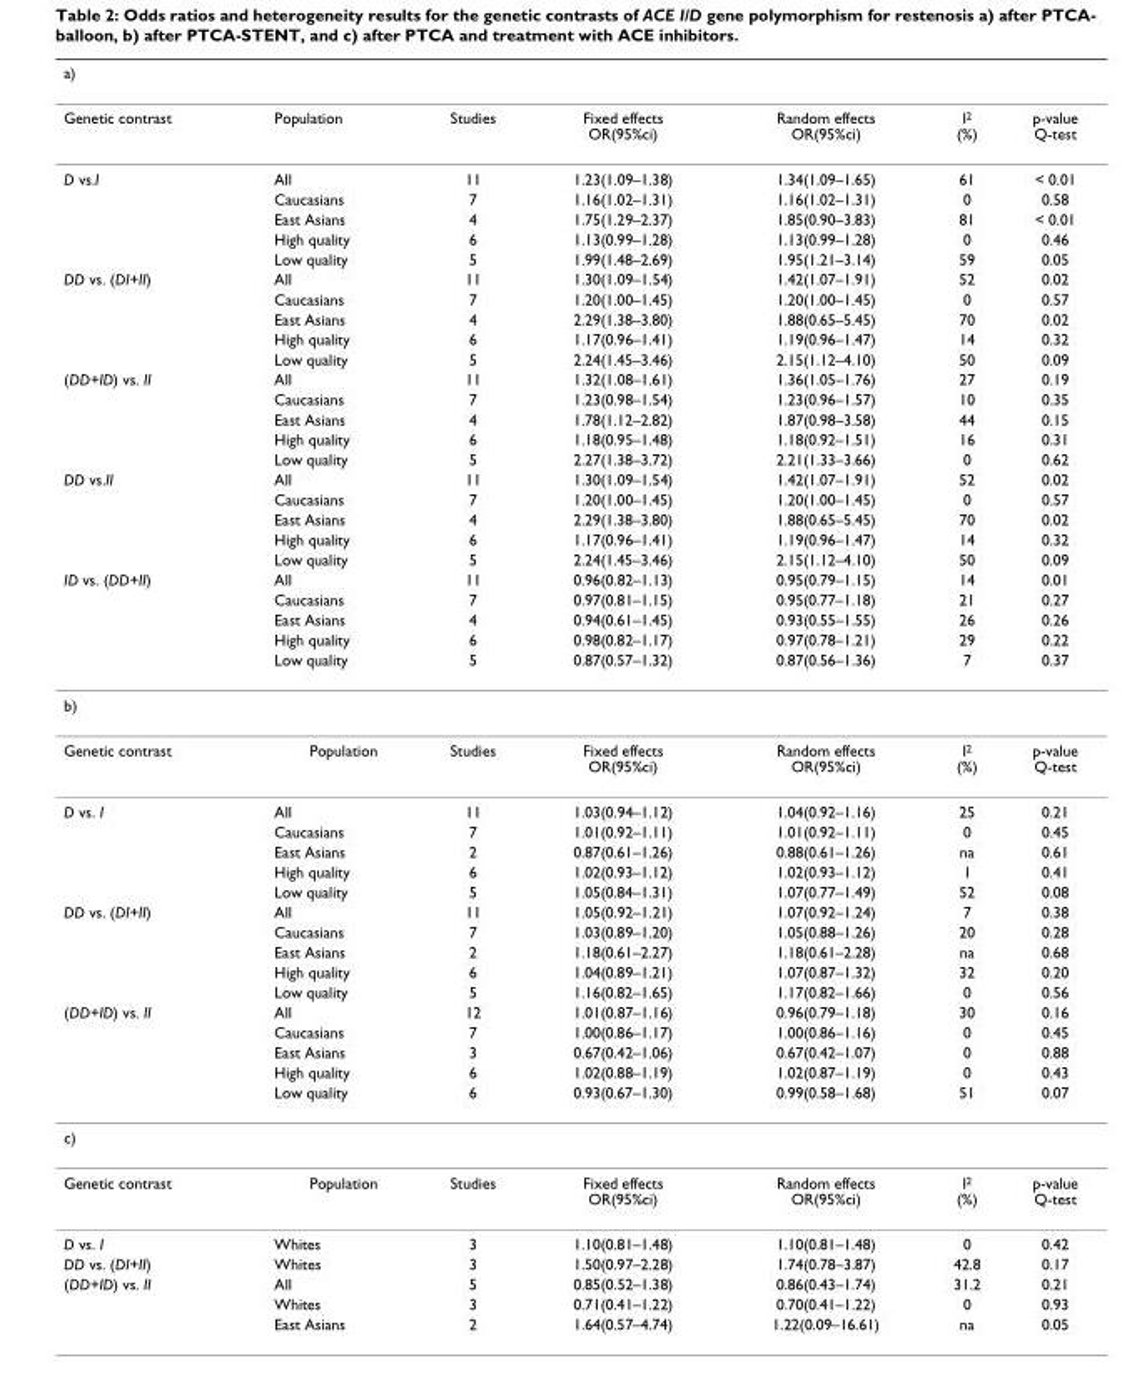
<table><thead><tr><td>a)</td><td></td><td></td><td></td><td></td><td></td><td></td></tr></thead><tbody><tr><td>Genetic contrast</td><td>Population</td><td>Studies</td><td>Fixed effects OR(95%ci)</td><td>Random effects OR(95%ci)</td><td>I<sup>2</sup> (%)</td><td>p-value Q-test</td></tr><tr><td rowspan="5">D vs.I</td><td>All</td><td>11</td><td>1.23(1.09–1.38)</td><td>1.34(1.09–1.65)</td><td>61</td><td>&lt; 0.01</td></tr><tr><td>Caucasians</td><td>7</td><td>1.16(1.02–1.31)</td><td>1.16(1.02–1.31)</td><td>0</td><td>0.58</td></tr><tr><td>East Asians</td><td>4</td><td>1.75(1.29–2.37)</td><td>1.85(0.90–3.83)</td><td>81</td><td>&lt; 0.01</td></tr><tr><td>High quality</td><td>6</td><td>1.13(0.99–1.28)</td><td>1.13(0.99–1.28)</td><td>0</td><td>0.46</td></tr><tr><td>Low quality</td><td>5</td><td>1.99(1.48–2.69)</td><td>1.95(1.21–3.14)</td><td>59</td><td>0.05</td></tr><tr><td rowspan="5">DD vs. (DI+II)</td><td>All</td><td>11</td><td>1.30(1.09–1.54)</td><td>1.42(1.07–1.91)</td><td>52</td><td>0.02</td></tr><tr><td>Caucasians</td><td>7</td><td>1.20(1.00–1.45)</td><td>1.20(1.00–1.45)</td><td>0</td><td>0.57</td></tr><tr><td>East Asians</td><td>4</td><td>2.29(1.38–3.80)</td><td>1.88(0.65–5.45)</td><td>70</td><td>0.02</td></tr><tr><td>High quality</td><td>6</td><td>1.17(0.96–1.41)</td><td>1.19(0.96–1.47)</td><td>14</td><td>0.32</td></tr><tr><td>Low quality</td><td>5</td><td>2.24(1.45–3.46)</td><td>2.15(1.12–4.10)</td><td>50</td><td>0.09</td></tr><tr><td rowspan="5">(DD+ID) vs. II</td><td>All</td><td>11</td><td>1.32(1.08–1.61)</td><td>1.36(1.05–1.76)</td><td>27</td><td>0.19</td></tr><tr><td>Caucasians</td><td>7</td><td>1.23(0.98–1.54)</td><td>1.23(0.96–1.57)</td><td>10</td><td>0.35</td></tr><tr><td>East Asians</td><td>4</td><td>1.78(1.12–2.82)</td><td>1.87(0.98–3.58)</td><td>44</td><td>0.15</td></tr><tr><td>High quality</td><td>6</td><td>1.18(0.95–1.48)</td><td>1.18(0.92–1.51)</td><td>16</td><td>0.31</td></tr><tr><td>Low quality</td><td>5</td><td>2.27(1.38–3.72)</td><td>2.21(1.33–3.66)</td><td>0</td><td>0.62</td></tr><tr><td rowspan="5">DD vs.II</td><td>All</td><td>11</td><td>1.30(1.09–1.54)</td><td>1.42(1.07–1.91)</td><td>52</td><td>0.02</td></tr><tr><td>Caucasians</td><td>7</td><td>1.20(1.00–1.45)</td><td>1.20(1.00–1.45)</td><td>0</td><td>0.57</td></tr><tr><td>East Asians</td><td>4</td><td>2.29(1.38–3.80)</td><td>1.88(0.65–5.45)</td><td>70</td><td>0.02</td></tr><tr><td>High quality</td><td>6</td><td>1.17(0.96–1.41)</td><td>1.19(0.96–1.47)</td><td>14</td><td>0.32</td></tr><tr><td>Low quality</td><td>5</td><td>2.24(1.45–3.46)</td><td>2.15(1.12–4.10)</td><td>50</td><td>0.09</td></tr><tr><td rowspan="5">ID vs. (DD+II)</td><td>All</td><td>11</td><td>0.96(0.82–1.13)</td><td>0.95(0.79–1.15)</td><td>14</td><td>0.01</td></tr><tr><td>Caucasians</td><td>7</td><td>0.97(0.81–1.15)</td><td>0.95(0.77–1.18)</td><td>21</td><td>0.27</td></tr><tr><td>East Asians</td><td>4</td><td>0.94(0.61–1.45)</td><td>0.93(0.55–1.55)</td><td>26</td><td>0.26</td></tr><tr><td>High quality</td><td>6</td><td>0.98(0.82–1.17)</td><td>0.97(0.78–1.21)</td><td>29</td><td>0.22</td></tr><tr><td>Low quality</td><td>5</td><td>0.87(0.57–1.32)</td><td>0.87(0.56–1.36)</td><td>7</td><td>0.37</td></tr><tr><td colspan="7">b)</td></tr><tr><td>Genetic contrast</td><td>Population</td><td>Studies</td><td>Fixed effects OR(95%ci)</td><td>Random effects OR(95%ci)</td><td>I<sup>2</sup> (%)</td><td>p-value Q-test</td></tr><tr><td rowspan="5">D vs. I</td><td>All</td><td>11</td><td>1.03(0.94–1.12)</td><td>1.04(0.92–1.16)</td><td>25</td><td>0.21</td></tr><tr><td>Caucasians</td><td>7</td><td>1.01(0.92–1.11)</td><td>1.01(0.92–1.11)</td><td>0</td><td>0.45</td></tr><tr><td>East Asians</td><td>2</td><td>0.87(0.61–1.26)</td><td>0.88(0.61–1.26)</td><td>na</td><td>0.61</td></tr><tr><td>High quality</td><td>6</td><td>1.02(0.93–1.12)</td><td>1.02(0.93–1.12)</td><td>1</td><td>0.41</td></tr><tr><td>Low quality</td><td>5</td><td>1.05(0.84–1.31)</td><td>1.07(0.77–1.49)</td><td>52</td><td>0.08</td></tr><tr><td rowspan="5">DD vs. (DI+II)</td><td>All</td><td>11</td><td>1.05(0.92–1.21)</td><td>1.07(0.92–1.24)</td><td>7</td><td>0.38</td></tr><tr><td>Caucasians</td><td>7</td><td>1.03(0.89–1.20)</td><td>1.05(0.88–1.26)</td><td>20</td><td>0.28</td></tr><tr><td>East Asians</td><td>2</td><td>1.18(0.61–2.27)</td><td>1.18(0.61–2.28)</td><td>na</td><td>0.68</td></tr><tr><td>High quality</td><td>6</td><td>1.04(0.89–1.21)</td><td>1.07(0.87–1.32)</td><td>32</td><td>0.20</td></tr><tr><td>Low quality</td><td>5</td><td>1.16(0.82–1.65)</td><td>1.17(0.82–1.66)</td><td>0</td><td>0.56</td></tr><tr><td rowspan="5">(DD+ID) vs. II</td><td>All</td><td>12</td><td>1.01(0.87–1.16)</td><td>0.96(0.79–1.18)</td><td>30</td><td>0.16</td></tr><tr><td>Caucasians</td><td>7</td><td>1.00(0.86–1.17)</td><td>1.00(0.86–1.16)</td><td>0</td><td>0.45</td></tr><tr><td>East Asians</td><td>3</td><td>0.67(0.42–1.06)</td><td>0.67(0.42–1.07)</td><td>0</td><td>0.88</td></tr><tr><td>High quality</td><td>6</td><td>1.02(0.88–1.19)</td><td>1.02(0.87–1.19)</td><td>0</td><td>0.43</td></tr><tr><td>Low quality</td><td>6</td><td>0.93(0.67–1.30)</td><td>0.99(0.58–1.68)</td><td>51</td><td>0.07</td></tr><tr><td colspan="7">c)</td></tr><tr><td>Genetic contrast</td><td>Population</td><td>Studies</td><td>Fixed effects OR(95%ci)</td><td>Random effects OR(95%ci)</td><td>I<sup>2</sup> (%)</td><td>p-value Q-test</td></tr><tr><td>D vs. I</td><td>Whites</td><td>3</td><td>1.10(0.81–1.48)</td><td>1.10(0.81–1.48)</td><td>0</td><td>0.42</td></tr><tr><td>DD vs. (DI+II)</td><td>Whites</td><td>3</td><td>1.50(0.97–2.28)</td><td>1.74(0.78–3.87)</td><td>42.8</td><td>0.17</td></tr><tr><td rowspan="3">(DD+ID) vs. II</td><td>All</td><td>5</td><td>0.85(0.52–1.38)</td><td>0.86(0.43–1.74)</td><td>31.2</td><td>0.21</td></tr><tr><td>Whites</td><td>3</td><td>0.71(0.41–1.22)</td><td>0.70(0.41–1.22)</td><td>0</td><td>0.93</td></tr><tr><td>East Asians</td><td>2</td><td>1.64(0.57–4.74)</td><td>1.22(0.09–16.61)</td><td>na</td><td>0.05</td></tr></tbody></table>